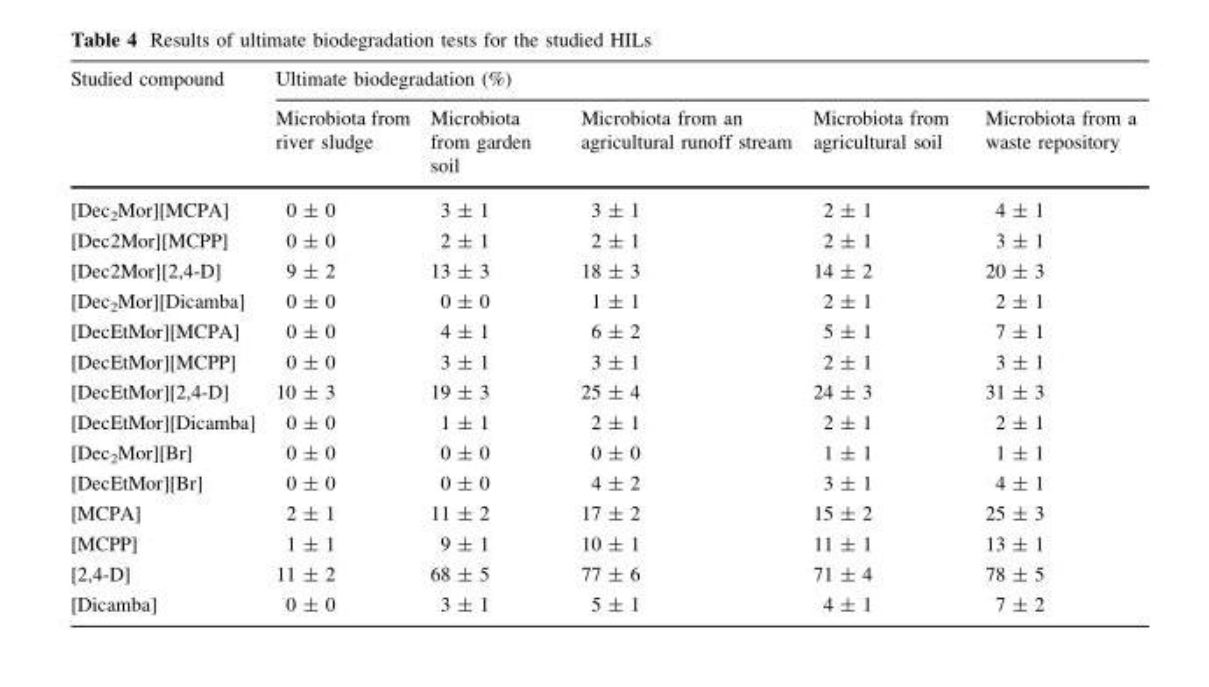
<table><thead><tr><td rowspan="2">Studied compound</td><td colspan="5">Ultimate biodegradation (%)</td></tr><tr><td>Microbiota from river sludge</td><td>Microbiota from garden soil</td><td>Microbiota from an agricultural runoff stream</td><td>Microbiota from agricultural soil</td><td>Microbiota from a waste repository</td></tr></thead><tbody><tr><td>[Dec<sub>2</sub>Mor][MCPA]</td><td>0 ± 0</td><td>3 ± 1</td><td>3 ± 1</td><td>2 ± 1</td><td>4 ± 1</td></tr><tr><td>[Dec2Mor][MCPP]</td><td>0 ± 0</td><td>2 ± 1</td><td>2 ± 1</td><td>2 ± 1</td><td>3 ± 1</td></tr><tr><td>[Dec2Mor][2,4-D]</td><td>9 ± 2</td><td>13 ± 3</td><td>18 ± 3</td><td>14 ± 2</td><td>20 ± 3</td></tr><tr><td>[Dec<sub>2</sub>Mor][Dicamba]</td><td>0 ± 0</td><td>0 ± 0</td><td>1 ± 1</td><td>2 ± 1</td><td>2 ± 1</td></tr><tr><td>[DecEtMor][MCPA]</td><td>0 ± 0</td><td>4 ± 1</td><td>6 ± 2</td><td>5 ± 1</td><td>7 ± 1</td></tr><tr><td>[DecEtMor][MCPP]</td><td>0 ± 0</td><td>3 ± 1</td><td>3 ± 1</td><td>2 ± 1</td><td>3 ± 1</td></tr><tr><td>[DecEtMor][2,4-D]</td><td>10 ± 3</td><td>19 ± 3</td><td>25 ± 4</td><td>24 ± 3</td><td>31 ± 3</td></tr><tr><td>[DecEtMor][Dicamba]</td><td>0 ± 0</td><td>1 ± 1</td><td>2 ± 1</td><td>2 ± 1</td><td>2 ± 1</td></tr><tr><td>[Dec<sub>2</sub>Mor][Br]</td><td>0 ± 0</td><td>0 ± 0</td><td>0 ± 0</td><td>1 ± 1</td><td>1 ± 1</td></tr><tr><td>[DecEtMor][Br]</td><td>0 ± 0</td><td>0 ± 0</td><td>4 ± 2</td><td>3 ± 1</td><td>4 ± 1</td></tr><tr><td>[MCPA]</td><td>2 ± 1</td><td>11 ± 2</td><td>17 ± 2</td><td>15 ± 2</td><td>25 ± 3</td></tr><tr><td>[MCPP]</td><td>1 ± 1</td><td>9 ± 1</td><td>10 ± 1</td><td>11 ± 1</td><td>13 ± 1</td></tr><tr><td>[2,4-D]</td><td>11 ± 2</td><td>68 ± 5</td><td>77 ± 6</td><td>71 ± 4</td><td>78 ± 5</td></tr><tr><td>[Dicamba]</td><td>0 ± 0</td><td>3 ± 1</td><td>5 ± 1</td><td>4 ± 1</td><td>7 ± 2</td></tr></tbody></table>